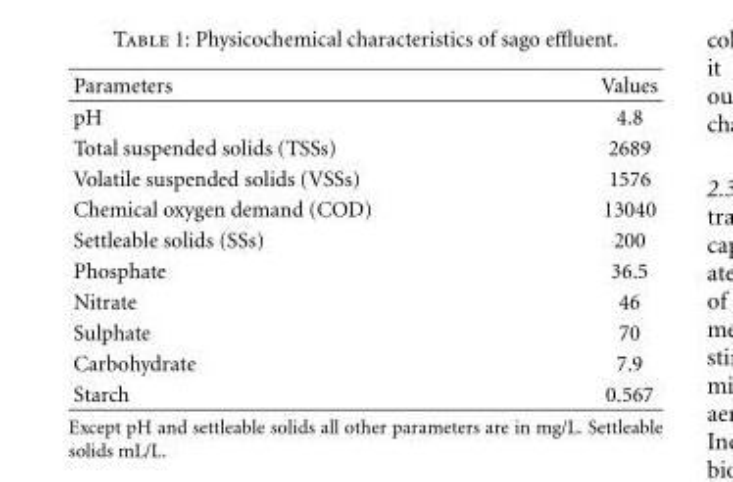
<table><thead><tr><td>Parameters</td><td>Values</td></tr></thead><tbody><tr><td>pH</td><td>4.8</td></tr><tr><td>Total suspended solids (TSSs)</td><td>2689</td></tr><tr><td>Volatile suspended solids (VSSs)</td><td>1576</td></tr><tr><td>Chemical oxygen demand (COD)</td><td>13040</td></tr><tr><td>Settleable solids (SSs)</td><td>200</td></tr><tr><td>Phosphate</td><td>36.5</td></tr><tr><td>Nitrate</td><td>46</td></tr><tr><td>Sulphate</td><td>70</td></tr><tr><td>Carbohydrate</td><td>7.9</td></tr><tr><td>Starch</td><td>0.567</td></tr></tbody></table>